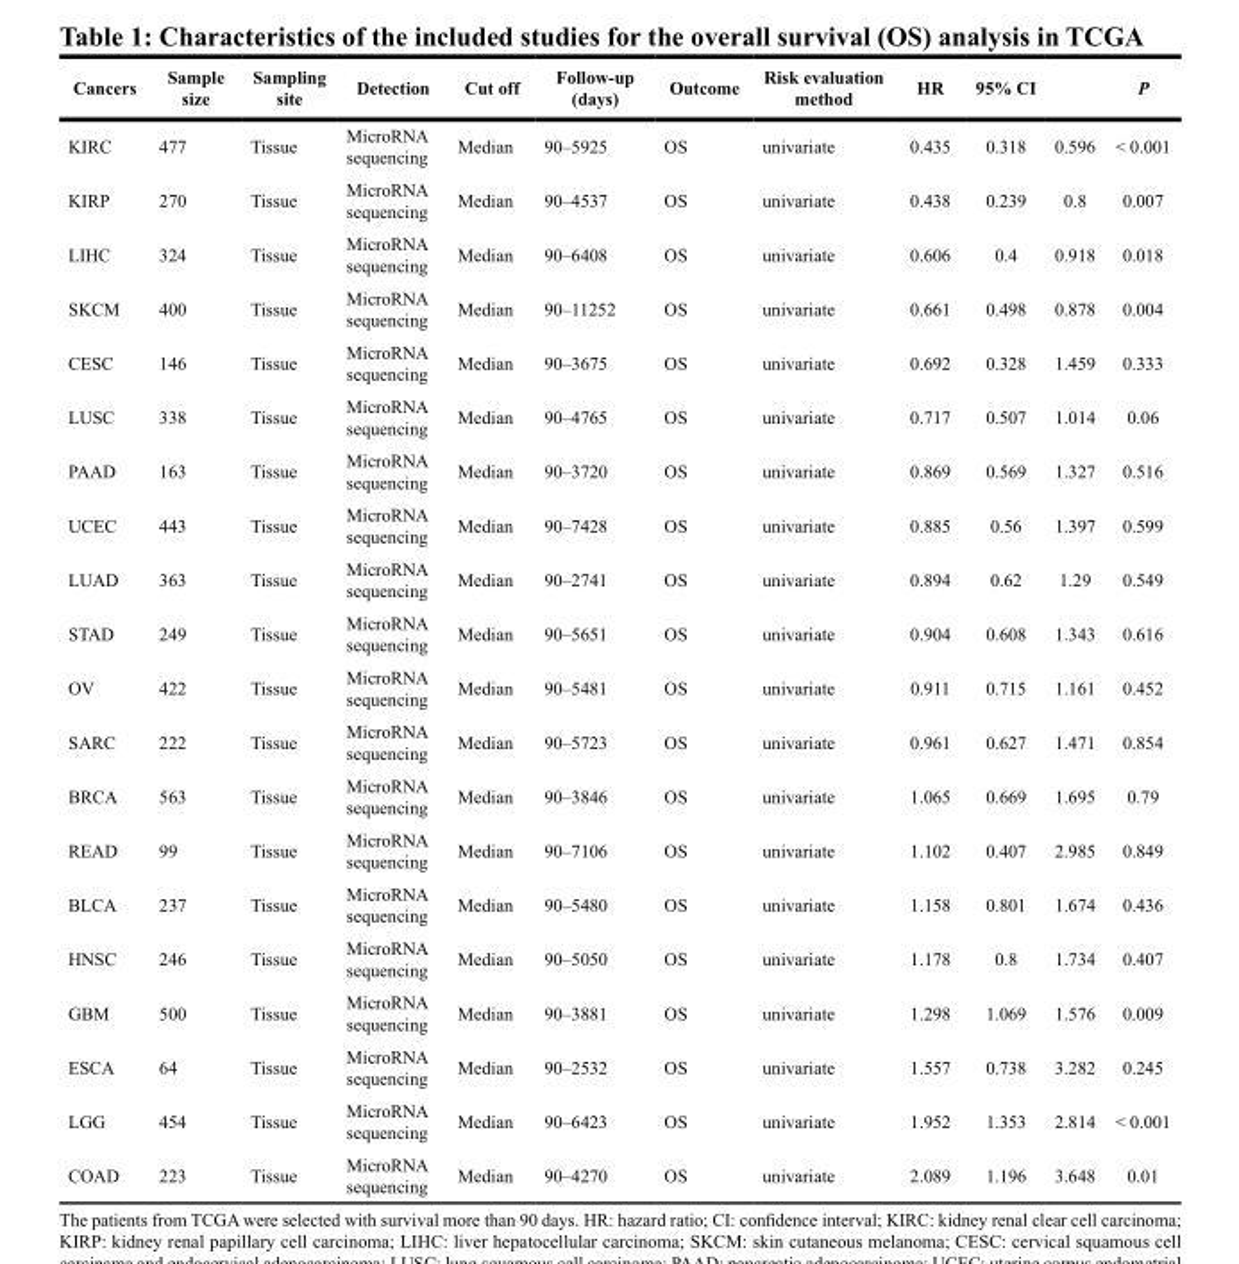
<table><thead><tr><td>Cancers</td><td>Sample size</td><td>Sampling site</td><td>Detection</td><td>Cut off</td><td>Follow-up (days)</td><td>Outcome</td><td>Risk evaluation method</td><td>HR</td><td>95% CI</td><td></td><td>P</td></tr></thead><tbody><tr><td>KIRC</td><td>477</td><td>Tissue</td><td>MicroRNA sequencing</td><td>Median</td><td>90–5925</td><td>OS</td><td>univariate</td><td>0.435</td><td>0.318</td><td>0.596</td><td>&lt; 0.001</td></tr><tr><td>KIRP</td><td>270</td><td>Tissue</td><td>MicroRNA sequencing</td><td>Median</td><td>90–4537</td><td>OS</td><td>univariate</td><td>0.438</td><td>0.239</td><td>0.8</td><td>0.007</td></tr><tr><td>LIHC</td><td>324</td><td>Tissue</td><td>MicroRNA sequencing</td><td>Median</td><td>90–6408</td><td>OS</td><td>univariate</td><td>0.606</td><td>0.4</td><td>0.918</td><td>0.018</td></tr><tr><td>SKCM</td><td>400</td><td>Tissue</td><td>MicroRNA sequencing</td><td>Median</td><td>90–11252</td><td>OS</td><td>univariate</td><td>0.661</td><td>0.498</td><td>0.878</td><td>0.004</td></tr><tr><td>CESC</td><td>146</td><td>Tissue</td><td>MicroRNA sequencing</td><td>Median</td><td>90–3675</td><td>OS</td><td>univariate</td><td>0.692</td><td>0.328</td><td>1.459</td><td>0.333</td></tr><tr><td>LUSC</td><td>338</td><td>Tissue</td><td>MicroRNA sequencing</td><td>Median</td><td>90–4765</td><td>OS</td><td>univariate</td><td>0.717</td><td>0.507</td><td>1.014</td><td>0.06</td></tr><tr><td>PAAD</td><td>163</td><td>Tissue</td><td>MicroRNA sequencing</td><td>Median</td><td>90–3720</td><td>OS</td><td>univariate</td><td>0.869</td><td>0.569</td><td>1.327</td><td>0.516</td></tr><tr><td>UCEC</td><td>443</td><td>Tissue</td><td>MicroRNA sequencing</td><td>Median</td><td>90–7428</td><td>OS</td><td>univariate</td><td>0.885</td><td>0.56</td><td>1.397</td><td>0.599</td></tr><tr><td>LUAD</td><td>363</td><td>Tissue</td><td>MicroRNA sequencing</td><td>Median</td><td>90–2741</td><td>OS</td><td>univariate</td><td>0.894</td><td>0.62</td><td>1.29</td><td>0.549</td></tr><tr><td>STAD</td><td>249</td><td>Tissue</td><td>MicroRNA sequencing</td><td>Median</td><td>90–5651</td><td>OS</td><td>univariate</td><td>0.904</td><td>0.608</td><td>1.343</td><td>0.616</td></tr><tr><td>OV</td><td>422</td><td>Tissue</td><td>MicroRNA sequencing</td><td>Median</td><td>90–5481</td><td>OS</td><td>univariate</td><td>0.911</td><td>0.715</td><td>1.161</td><td>0.452</td></tr><tr><td>SARC</td><td>222</td><td>Tissue</td><td>MicroRNA sequencing</td><td>Median</td><td>90–5723</td><td>OS</td><td>univariate</td><td>0.961</td><td>0.627</td><td>1.471</td><td>0.854</td></tr><tr><td>BRCA</td><td>563</td><td>Tissue</td><td>MicroRNA sequencing</td><td>Median</td><td>90–3846</td><td>OS</td><td>univariate</td><td>1.065</td><td>0.669</td><td>1.695</td><td>0.79</td></tr><tr><td>READ</td><td>99</td><td>Tissue</td><td>MicroRNA sequencing</td><td>Median</td><td>90–7106</td><td>OS</td><td>univariate</td><td>1.102</td><td>0.407</td><td>2.985</td><td>0.849</td></tr><tr><td>BLCA</td><td>237</td><td>Tissue</td><td>MicroRNA sequencing</td><td>Median</td><td>90–5480</td><td>OS</td><td>univariate</td><td>1.158</td><td>0.801</td><td>1.674</td><td>0.436</td></tr><tr><td>HNSC</td><td>246</td><td>Tissue</td><td>MicroRNA sequencing</td><td>Median</td><td>90–5050</td><td>OS</td><td>univariate</td><td>1.178</td><td>0.8</td><td>1.734</td><td>0.407</td></tr><tr><td>GBM</td><td>500</td><td>Tissue</td><td>MicroRNA sequencing</td><td>Median</td><td>90–3881</td><td>OS</td><td>univariate</td><td>1.298</td><td>1.069</td><td>1.576</td><td>0.009</td></tr><tr><td>ESCA</td><td>64</td><td>Tissue</td><td>MicroRNA sequencing</td><td>Median</td><td>90–2532</td><td>OS</td><td>univariate</td><td>1.557</td><td>0.738</td><td>3.282</td><td>0.245</td></tr><tr><td>LGG</td><td>454</td><td>Tissue</td><td>MicroRNA sequencing</td><td>Median</td><td>90–6423</td><td>OS</td><td>univariate</td><td>1.952</td><td>1.353</td><td>2.814</td><td>&lt; 0.001</td></tr><tr><td>COAD</td><td>223</td><td>Tissue</td><td>MicroRNA sequencing</td><td>Median</td><td>90–4270</td><td>OS</td><td>univariate</td><td>2.089</td><td>1.196</td><td>3.648</td><td>0.01</td></tr></tbody></table>